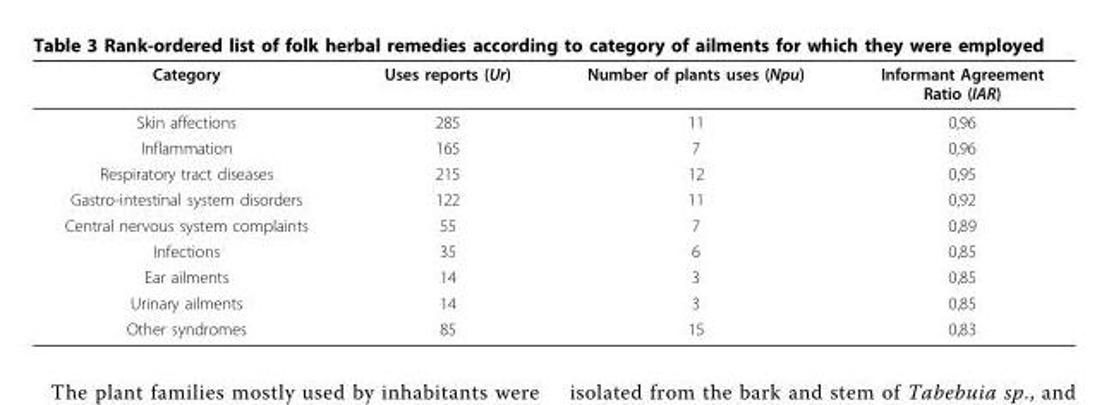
<table><thead><tr><td>Category</td><td>Uses reports (Ur)</td><td>Number of plants uses (Npu)</td><td>Informant Agreement Ratio (IAR)</td></tr></thead><tbody><tr><td>Skin affections</td><td>285</td><td>11</td><td>0,96</td></tr><tr><td>Inflammation</td><td>165</td><td>7</td><td>0,96</td></tr><tr><td>Respiratory tract diseases</td><td>215</td><td>12</td><td>0,95</td></tr><tr><td>Gastro-intestinal system disorders</td><td>122</td><td>11</td><td>0,92</td></tr><tr><td>Central nervous system complaints</td><td>55</td><td>7</td><td>0,89</td></tr><tr><td>Infections</td><td>35</td><td>6</td><td>0,85</td></tr><tr><td>Ear ailments</td><td>14</td><td>3</td><td>0,85</td></tr><tr><td>Urinary ailments</td><td>14</td><td>3</td><td>0,85</td></tr><tr><td>Other syndromes</td><td>85</td><td>15</td><td>0,83</td></tr></tbody></table>